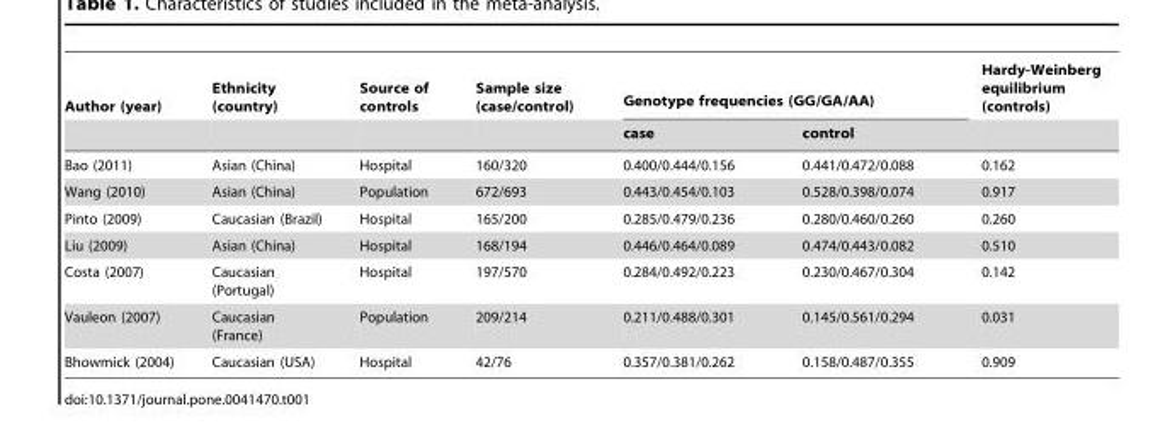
<table><thead><tr><td rowspan="2">Author (year)</td><td rowspan="2">Ethnicity (country)</td><td rowspan="2">Source of controls</td><td rowspan="2">Sample size (case/control)</td><td colspan="2">Genotype frequencies (GG/GA/AA)</td><td rowspan="2">Hardy-Weinberg equilibrium (controls)</td></tr><tr><td>case</td><td>control</td></tr></thead><tbody><tr><td>Bao (2011)</td><td>Asian (China)</td><td>Hospital</td><td>160/320</td><td>0.400/0.444/0.156</td><td>0.441/0.472/0.088</td><td>0.162</td></tr><tr><td>Wang (2010)</td><td>Asian (China)</td><td>Population</td><td>672/693</td><td>0.443/0.454/0.103</td><td>0.528/0.398/0.074</td><td>0.917</td></tr><tr><td>Pinto (2009)</td><td>Caucasian (Brazil)</td><td>Hospital</td><td>165/200</td><td>0.285/0.479/0.236</td><td>0.280/0.460/0.260</td><td>0.260</td></tr><tr><td>Liu (2009)</td><td>Asian (China)</td><td>Hospital</td><td>168/194</td><td>0.446/0.464/0.089</td><td>0.474/0.443/0.082</td><td>0.510</td></tr><tr><td>Costa (2007)</td><td>Caucasian (Portugal)</td><td>Hospital</td><td>197/570</td><td>0.284/0.492/0.223</td><td>0.230/0.467/0.304</td><td>0.142</td></tr><tr><td>Vauleon (2007)</td><td>Caucasian (France)</td><td>Population</td><td>209/214</td><td>0.211/0.488/0.301</td><td>0.145/0.561/0.294</td><td>0.031</td></tr><tr><td>Bhowmick (2004)</td><td>Caucasian (USA)</td><td>Hospital</td><td>42/76</td><td>0.357/0.381/0.262</td><td>0.158/0.487/0.355</td><td>0.909</td></tr></tbody></table>